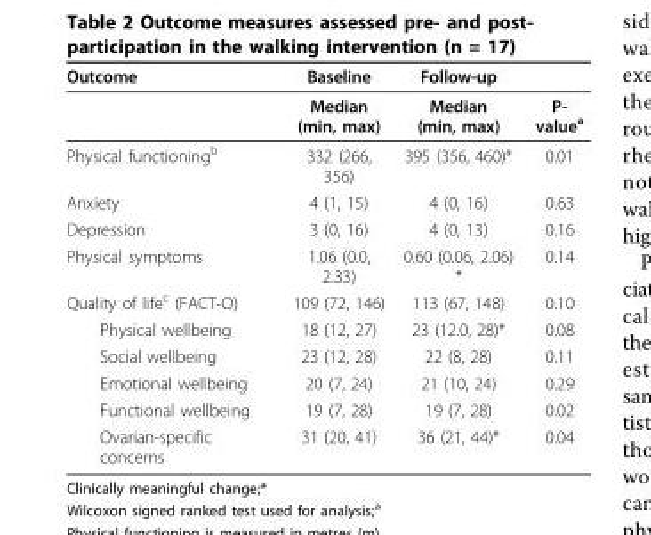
<table><thead><tr><td>Outcome</td><td>Baseline</td><td>Follow-up</td><td></td></tr></thead><tbody><tr><td></td><td>Median (min, max)</td><td>Median (min, max)</td><td>P- value<sup>a</sup></td></tr><tr><td>Physical functioning<sup>b</sup></td><td>332 (266, 356)</td><td>395 (356, 460)*</td><td>0.01</td></tr><tr><td>Anxiety</td><td>4 (1, 15)</td><td>4 (0, 16)</td><td>0.63</td></tr><tr><td>Depression</td><td>3 (0, 16)</td><td>4 (0, 13)</td><td>0.16</td></tr><tr><td>Physical symptoms</td><td>1.06 (0.0, 2.33)</td><td>0.60 (0.06, 2.06) *</td><td>0.14</td></tr><tr><td>Quality of life<sup>c</sup> (FACT-O)</td><td>109 (72, 146)</td><td>113 (67, 148)</td><td>0.10</td></tr><tr><td>Physical wellbeing</td><td>18 (12, 27)</td><td>23 (12.0, 28)*</td><td>0.08</td></tr><tr><td>Social wellbeing</td><td>23 (12, 28)</td><td>22 (8, 28)</td><td>0.11</td></tr><tr><td>Emotional wellbeing</td><td>20 (7, 24)</td><td>21 (10, 24)</td><td>0.29</td></tr><tr><td>Functional wellbeing</td><td>19 (7, 28)</td><td>19 (7, 28)</td><td>0.02</td></tr><tr><td>Ovarian-specific concerns</td><td>31 (20, 41)</td><td>36 (21, 44)*</td><td>0.04</td></tr></tbody></table>